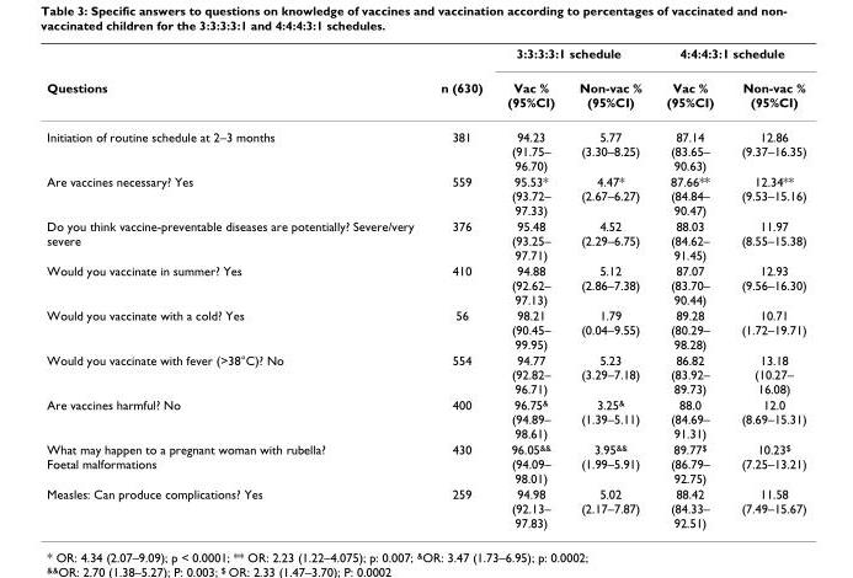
<table><thead><tr><td rowspan="2">Questions</td><td rowspan="2">n (630)</td><td colspan="2">3:3:3:3:1 schedule</td><td colspan="2">4:4:4:3:1 schedule</td></tr><tr><td>Vac % (95%CI)</td><td>Non-vac % (95%CI)</td><td>Vac % (95%CI)</td><td>Non-vac % (95%CI)</td></tr></thead><tbody><tr><td>Initiation of routine schedule at 2–3 months</td><td>381</td><td>94.23 (91.75– 96.70)</td><td>5.77 (3.30–8.25)</td><td>87.14 (83.65– 90.63)</td><td>12.86 (9.37–16.35)</td></tr><tr><td>Are vaccines necessary? Yes</td><td>559</td><td>95.53* (93.72– 97.33)</td><td>4.47* (2.67–6.27)</td><td>87.66** (84.84– 90.47)</td><td>12.34** (9.53–15.16)</td></tr><tr><td>Do you think vaccine-preventable diseases are potentially? Severe/very severe</td><td>376</td><td>95.48 (93.25– 97.71)</td><td>4.52 (2.29–6.75)</td><td>88.03 (84.62– 91.45)</td><td>11.97 (8.55–15.38)</td></tr><tr><td>Would you vaccinate in summer? Yes</td><td>410</td><td>94.88 (92.62– 97.13)</td><td>5.12 (2.86–7.38)</td><td>87.07 (83.70– 90.44)</td><td>12.93 (9.56–16.30)</td></tr><tr><td>Would you vaccinate with a cold? Yes</td><td>56</td><td>98.21 (90.45– 99.95)</td><td>1.79 (0.04–9.55)</td><td>89.28 (80.29– 98.28)</td><td>10.71 (1.72–19.71)</td></tr><tr><td>Would you vaccinate with fever (&gt;38°C)? No</td><td>554</td><td>94.77 (92.82– 96.71)</td><td>5.23 (3.29–7.18)</td><td>86.82 (83.92– 89.73)</td><td>13.18 (10.27– 16.08)</td></tr><tr><td>Are vaccines harmful? No</td><td>400</td><td>96.75<sup>&amp;</sup> (94.89– 98.61)</td><td>3.25<sup>&amp;</sup> (1.39–5.11)</td><td>88.0 (84.69– 91.31)</td><td>12.0 (8.69–15.31)</td></tr><tr><td>What may happen to a pregnant woman with rubella? Foetal malformations</td><td>430</td><td>96.05<sup>&amp;&amp;</sup> (94.09– 98.01)</td><td>3.95<sup>&amp;&amp;</sup> (1.99–5.91)</td><td>89.77<sup>$</sup> (86.79– 92.75)</td><td>10.23<sup>$</sup> (7.25–13.21)</td></tr><tr><td>Measles: Can produce complications? Yes</td><td>259</td><td>94.98 (92.13– 97.83)</td><td>5.02 (2.17–7.87)</td><td>88.42 (84.33– 92.51)</td><td>11.58 (7.49–15.67)</td></tr></tbody></table>